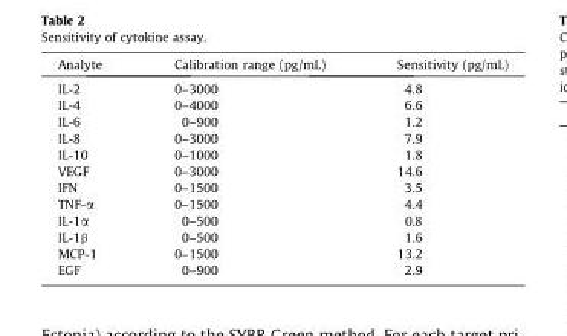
<table><thead><tr><td>Analyte</td><td>Calibration range (pg/mL)</td><td>Sensitivity (pg/mL)</td></tr></thead><tbody><tr><td>IL-2</td><td>0–3000</td><td>4.8</td></tr><tr><td>IL-4</td><td>0–4000</td><td>6.6</td></tr><tr><td>IL-6</td><td>0–900</td><td>1.2</td></tr><tr><td>IL-8</td><td>0–3000</td><td>7.9</td></tr><tr><td>IL-10</td><td>0–1000</td><td>1.8</td></tr><tr><td>VEGF</td><td>0–3000</td><td>14.6</td></tr><tr><td>IFN</td><td>0–1500</td><td>3.5</td></tr><tr><td>TNF-α</td><td>0–1500</td><td>4.4</td></tr><tr><td>IL-1α</td><td>0–500</td><td>0.8</td></tr><tr><td>IL-1β</td><td>0–500</td><td>1.6</td></tr><tr><td>MCP-1</td><td>0–1500</td><td>13.2</td></tr><tr><td>EGF</td><td>0–900</td><td>2.9</td></tr></tbody></table>